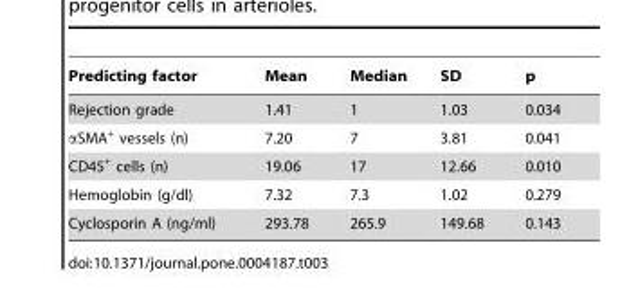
<table><thead><tr><td>Predicting factor</td><td>Mean</td><td>Median</td><td>SD</td><td>p</td></tr></thead><tbody><tr><td>Rejection grade</td><td>1.41</td><td>1</td><td>1.03</td><td>0.034</td></tr><tr><td>αSMA<sup>+</sup> vessels (n)</td><td>7.20</td><td>7</td><td>3.81</td><td>0.041</td></tr><tr><td>CD45<sup>+</sup> cells (n)</td><td>19.06</td><td>17</td><td>12.66</td><td>0.010</td></tr><tr><td>Hemoglobin (g/dl)</td><td>7.32</td><td>7.3</td><td>1.02</td><td>0.279</td></tr><tr><td>Cyclosporin A (ng/ml)</td><td>293.78</td><td>265.9</td><td>149.68</td><td>0.143</td></tr></tbody></table>